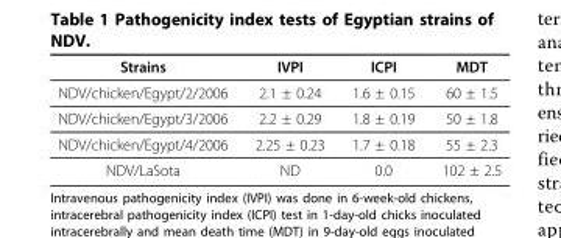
<table><thead><tr><td>Strains</td><td>IVPI</td><td>ICPI</td><td>MDT</td></tr></thead><tbody><tr><td>NDV/chicken/Egypt/2/2006</td><td>2.1 ± 0.24</td><td>1.6 ± 0.15</td><td>60 ± 1.5</td></tr><tr><td>NDV/chicken/Egypt/3/2006</td><td>2.2 ± 0.29</td><td>1.8 ± 0.19</td><td>50 ± 1.8</td></tr><tr><td>NDV/chicken/Egypt/4/2006</td><td>2.25 ± 0.23</td><td>1.7 ± 0.18</td><td>55 ± 2.3</td></tr><tr><td>NDV/LaSota</td><td>ND</td><td>0.0</td><td>102 ± 2.5</td></tr></tbody></table>